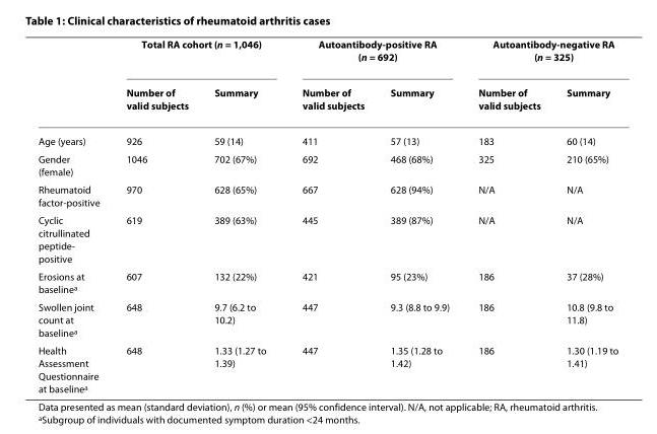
<table><thead><tr><td rowspan="2"></td><td colspan="2">Total RA cohort (n = 1,046)</td><td colspan="2">Autoantibody-positive RA (n = 692)</td><td colspan="2">Autoantibody-negative RA (n = 325)</td></tr><tr><td>Number of valid subjects</td><td>Summary</td><td>Number of valid subjects</td><td>Summary</td><td>Number of valid subjects</td><td>Summary</td></tr></thead><tbody><tr><td>Age (years)</td><td>926</td><td>59 (14)</td><td>411</td><td>57 (13)</td><td>183</td><td>60 (14)</td></tr><tr><td>Gender (female)</td><td>1046</td><td>702 (67%)</td><td>692</td><td>468 (68%)</td><td>325</td><td>210 (65%)</td></tr><tr><td>Rheumatoid factor-positive</td><td>970</td><td>628 (65%)</td><td>667</td><td>628 (94%)</td><td>N/A</td><td>N/A</td></tr><tr><td>Cyclic citrullinated peptide- positive</td><td>619</td><td>389 (63%)</td><td>445</td><td>389 (87%)</td><td>N/A</td><td>N/A</td></tr><tr><td>Erosions at baseline<sup>a</sup></td><td>607</td><td>132 (22%)</td><td>421</td><td>95 (23%)</td><td>186</td><td>37 (28%)</td></tr><tr><td>Swollen joint count at baseline<sup>a</sup></td><td>648</td><td>9.7 (6.2 to 10.2)</td><td>447</td><td>9.3 (8.8 to 9.9)</td><td>186</td><td>10.8 (9.8 to 11.8)</td></tr><tr><td>Health Assessment Questionnaire at baseline<sup>a</sup></td><td>648</td><td>1.33 (1.27 to 1.39)</td><td>447</td><td>1.35 (1.28 to 1.42)</td><td>186</td><td>1.30 (1.19 to 1.41)</td></tr></tbody></table>